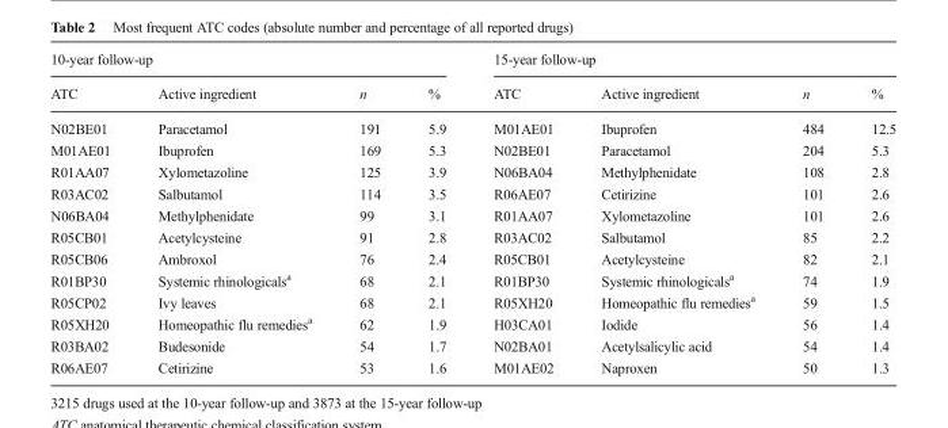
<table><thead><tr><td colspan="4">10-year follow-up</td><td colspan="4">15-year follow-up</td></tr><tr><td>ATC</td><td>Active ingredient</td><td>n</td><td>%</td><td>ATC</td><td>Active ingredient</td><td>n</td><td>%</td></tr></thead><tbody><tr><td>N02BE01</td><td>Paracetamol</td><td>191</td><td>5.9</td><td>M01AE01</td><td>Ibuprofen</td><td>484</td><td>12.5</td></tr><tr><td>M01AE01</td><td>Ibuprofen</td><td>169</td><td>5.3</td><td>N02BE01</td><td>Paracetamol</td><td>204</td><td>5.3</td></tr><tr><td>R01AA07</td><td>Xylometazoline</td><td>125</td><td>3.9</td><td>N06BA04</td><td>Methylphenidate</td><td>108</td><td>2.8</td></tr><tr><td>R03AC02</td><td>Salbutamol</td><td>114</td><td>3.5</td><td>R06AE07</td><td>Cetirizine</td><td>101</td><td>2.6</td></tr><tr><td>N06BA04</td><td>Methylphenidate</td><td>99</td><td>3.1</td><td>R01AA07</td><td>Xylometazoline</td><td>101</td><td>2.6</td></tr><tr><td>R05CB01</td><td>Acetylcysteine</td><td>91</td><td>2.8</td><td>R03AC02</td><td>Salbutamol</td><td>85</td><td>2.2</td></tr><tr><td>R05CB06</td><td>Ambroxol</td><td>76</td><td>2.4</td><td>R05CB01</td><td>Acetylcysteine</td><td>82</td><td>2.1</td></tr><tr><td>R01BP30</td><td>Systemic rhinologicals<sup>a</sup></td><td>68</td><td>2.1</td><td>R01BP30</td><td>Systemic rhinologicals<sup>a</sup></td><td>74</td><td>1.9</td></tr><tr><td>R05CP02</td><td>Ivy leaves</td><td>68</td><td>2.1</td><td>R05XH20</td><td>Homeopathic flu remedies<sup>a</sup></td><td>59</td><td>1.5</td></tr><tr><td>R05XH20</td><td>Homeopathic flu remedies<sup>a</sup></td><td>62</td><td>1.9</td><td>H03CA01</td><td>Iodide</td><td>56</td><td>1.4</td></tr><tr><td>R03BA02</td><td>Budesonide</td><td>54</td><td>1.7</td><td>N02BA01</td><td>Acetylsalicylic acid</td><td>54</td><td>1.4</td></tr><tr><td>R06AE07</td><td>Cetirizine</td><td>53</td><td>1.6</td><td>M01AE02</td><td>Naproxen</td><td>50</td><td>1.3</td></tr></tbody></table>